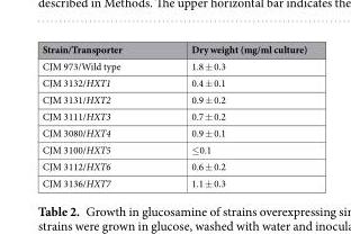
<table><thead><tr><td>Strain/Transporter</td><td>Dry weight (mg/ml culture)</td></tr></thead><tbody><tr><td>CJM 973/Wild type</td><td>1.8 ± 0.3</td></tr><tr><td>CJM 3132/HXT1</td><td>0.4 ± 0.1</td></tr><tr><td>CJM 3131/HXT2</td><td>0.9 ± 0.2</td></tr><tr><td>CJM 3111/HXT3</td><td>0.7 ± 0.2</td></tr><tr><td>CJM 3080/HXT4</td><td>0.9 ± 0.1</td></tr><tr><td>CJM 3100/HXT5</td><td>≤0.1</td></tr><tr><td>CJM 3112/HXT6</td><td>0.6 ± 0.2</td></tr><tr><td>CJM 3136/HXT7</td><td>1.1 ± 0.3</td></tr></tbody></table>